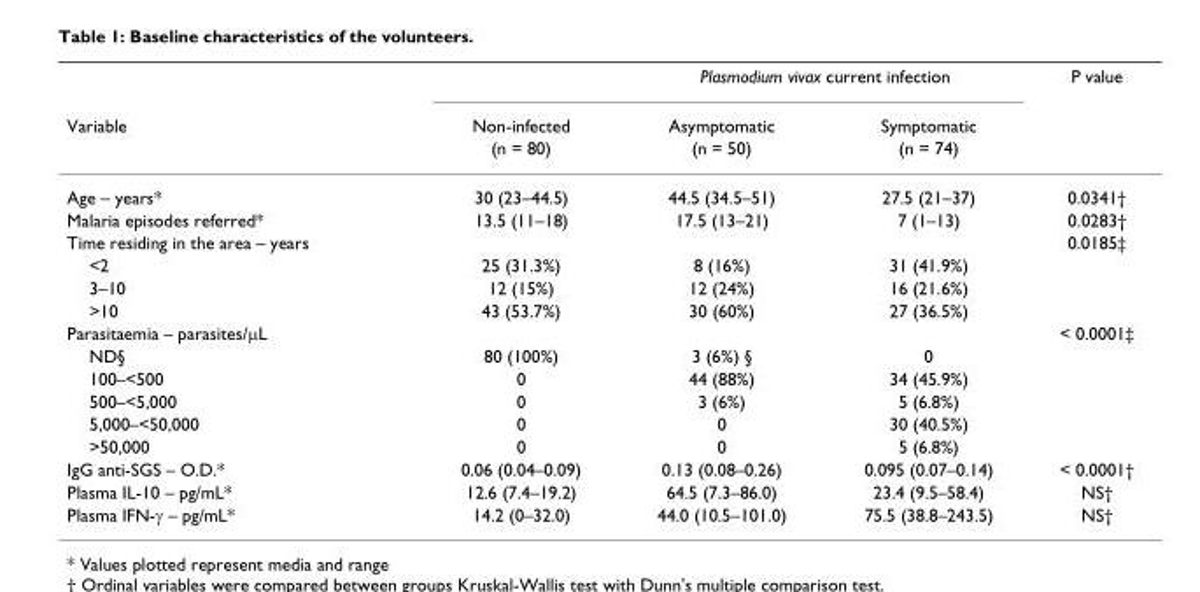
<table><thead><tr><td rowspan="3">Variable</td><td rowspan="3">Non-infected (n = 80)</td><td colspan="2">Plasmodium vivax current infection</td><td rowspan="3">P value</td></tr><tr><td rowspan="2">Asymptomatic (n = 50)</td><td rowspan="2">Symptomatic (n = 74)</td></tr><tr></tr></thead><tbody><tr><td>Age – years*</td><td>30 (23–44.5)</td><td>44.5 (34.5–51)</td><td>27.5 (21–37)</td><td>0.0341†</td></tr><tr><td>Malaria episodes referred*</td><td>13.5 (11–18)</td><td>17.5 (13–21)</td><td>7 (1–13)</td><td>0.0283†</td></tr><tr><td>Time residing in the area – years</td><td></td><td></td><td></td><td>0.0185‡</td></tr><tr><td>&lt;2</td><td>25 (31.3%)</td><td>8 (16%)</td><td>31 (41.9%)</td><td></td></tr><tr><td>3–10</td><td>12 (15%)</td><td>12 (24%)</td><td>16 (21.6%)</td><td></td></tr><tr><td>&gt;10</td><td>43 (53.7%)</td><td>30 (60%)</td><td>27 (36.5%)</td><td></td></tr><tr><td>Parasitaemia – parasites/μL</td><td></td><td></td><td></td><td>&lt; 0.0001‡</td></tr><tr><td>ND§</td><td>80 (100%)</td><td>3 (6%) §</td><td>0</td><td></td></tr><tr><td>100–&lt;500</td><td>0</td><td>44 (88%)</td><td>34 (45.9%)</td><td></td></tr><tr><td>500–&lt;5,000</td><td>0</td><td>3 (6%)</td><td>5 (6.8%)</td><td></td></tr><tr><td>5,000–&lt;50,000</td><td>0</td><td>0</td><td>30 (40.5%)</td><td></td></tr><tr><td>&gt;50,000</td><td>0</td><td>0</td><td>5 (6.8%)</td><td></td></tr><tr><td>IgG anti-SGS – O.D.*</td><td>0.06 (0.04–0.09)</td><td>0.13 (0.08–0.26)</td><td>0.095 (0.07–0.14)</td><td>&lt; 0.0001†</td></tr><tr><td>Plasma IL-10 – pg/mL*</td><td>12.6 (7.4–19.2)</td><td>64.5 (7.3–86.0)</td><td>23.4 (9.5–58.4)</td><td>NS†</td></tr><tr><td>Plasma IFN-γ – pg/mL*</td><td>14.2 (0–32.0)</td><td>44.0 (10.5–101.0)</td><td>75.5 (38.8–243.5)</td><td>NS†</td></tr></tbody></table>